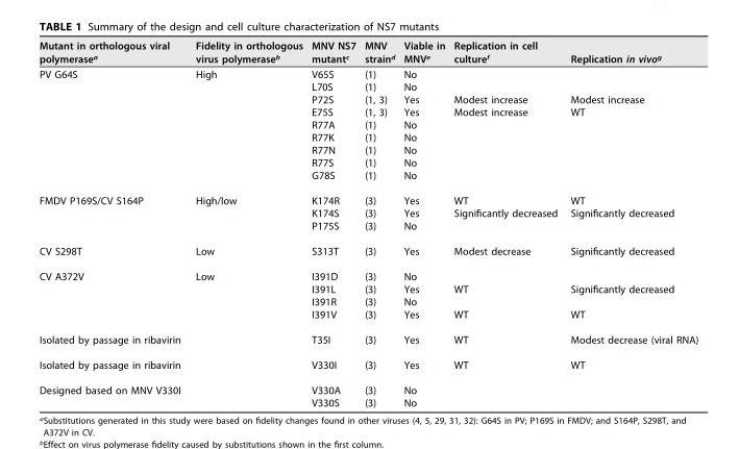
<table><thead><tr><td>Mutant in orthologous viral polymerase<sup>a</sup></td><td>Fidelity in orthologous virus polymerase<sup>b</sup></td><td>MNV NS7 mutant<sup>c</sup></td><td>MNV strain<sup>d</sup></td><td>Viable in MNV<sup>e</sup></td><td>Replication in cell culture<sup>f</sup></td><td>Replication in vivo<sup>g</sup></td></tr></thead><tbody><tr><td rowspan="9">PV G64S</td><td rowspan="9">High</td><td>V65S</td><td>(1)</td><td>No</td><td></td><td></td></tr><tr><td>L70S</td><td>(1)</td><td>No</td><td></td><td></td></tr><tr><td>P72S</td><td>(1, 3)</td><td>Yes</td><td>Modest increase</td><td>Modest increase</td></tr><tr><td>E75S</td><td>(1, 3)</td><td>Yes</td><td>Modest increase</td><td>WT</td></tr><tr><td>R77A</td><td>(1)</td><td>No</td><td></td><td></td></tr><tr><td>R77K</td><td>(1)</td><td>No</td><td></td><td></td></tr><tr><td>R77N</td><td>(1)</td><td>No</td><td></td><td></td></tr><tr><td>R77S</td><td>(1)</td><td>No</td><td></td><td></td></tr><tr><td>G78S</td><td>(1)</td><td>No</td><td></td><td></td></tr><tr><td rowspan="3">FMDV P169S/CV S164P</td><td rowspan="3">High/low</td><td>K174R</td><td>(3)</td><td>Yes</td><td>WT</td><td>WT</td></tr><tr><td>K174S</td><td>(3)</td><td>Yes</td><td>Significantly decreased</td><td>Significantly decreased</td></tr><tr><td>P175S</td><td>(3)</td><td>No</td><td></td><td></td></tr><tr><td>CV S298T</td><td>Low</td><td>S313T</td><td>(3)</td><td>Yes</td><td>Modest decrease</td><td>Significantly decreased</td></tr><tr><td rowspan="4">CV A372V</td><td rowspan="4">Low</td><td>I391D</td><td>(3)</td><td>No</td><td></td><td></td></tr><tr><td>I391L</td><td>(3)</td><td>Yes</td><td>WT</td><td>Significantly decreased</td></tr><tr><td>I391R</td><td>(3)</td><td>No</td><td></td><td></td></tr><tr><td>I391V</td><td>(3)</td><td>Yes</td><td>WT</td><td>WT</td></tr><tr><td>Isolated by passage in ribavirin</td><td></td><td>T35I</td><td>(3)</td><td>Yes</td><td>WT</td><td>Modest decrease (viral RNA)</td></tr><tr><td>Isolated by passage in ribavirin</td><td></td><td>V330I</td><td>(3)</td><td>Yes</td><td>WT</td><td>WT</td></tr><tr><td rowspan="2">Designed based on MNV V330I</td><td></td><td>V330A</td><td>(3)</td><td>No</td><td></td><td></td></tr><tr><td></td><td>V330S</td><td>(3)</td><td>No</td><td></td><td></td></tr></tbody></table>